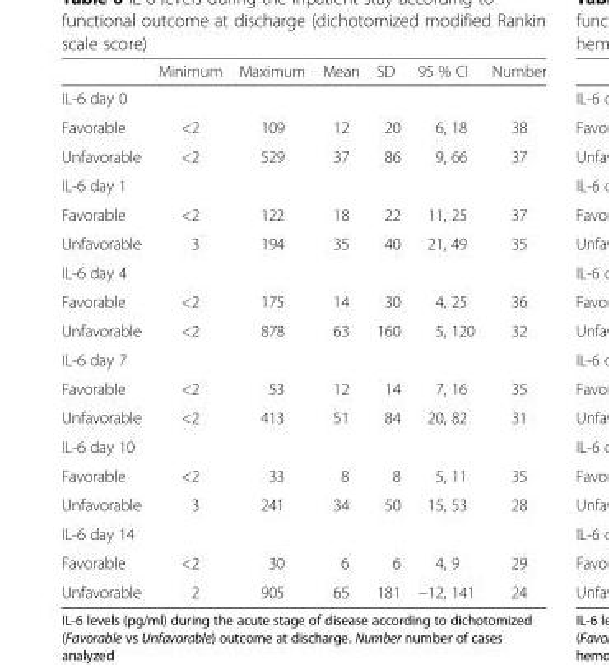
<table><thead><tr><td></td><td>Minimum</td><td>Maximum</td><td>Mean</td><td>SD</td><td>95 % CI</td><td>Number</td></tr></thead><tbody><tr><td colspan="7">IL-6 day 0</td></tr><tr><td>Favorable</td><td>&lt;2</td><td>109</td><td>12</td><td>20</td><td>6, 18</td><td>38</td></tr><tr><td>Unfavorable</td><td>&lt;2</td><td>529</td><td>37</td><td>86</td><td>9, 66</td><td>37</td></tr><tr><td colspan="7">IL-6 day 1</td></tr><tr><td>Favorable</td><td>&lt;2</td><td>122</td><td>18</td><td>22</td><td>11, 25</td><td>37</td></tr><tr><td>Unfavorable</td><td>3</td><td>194</td><td>35</td><td>40</td><td>21, 49</td><td>35</td></tr><tr><td colspan="7">IL-6 day 4</td></tr><tr><td>Favorable</td><td>&lt;2</td><td>175</td><td>14</td><td>30</td><td>4, 25</td><td>36</td></tr><tr><td>Unfavorable</td><td>&lt;2</td><td>878</td><td>63</td><td>160</td><td>5, 120</td><td>32</td></tr><tr><td colspan="7">IL-6 day 7</td></tr><tr><td>Favorable</td><td>&lt;2</td><td>53</td><td>12</td><td>14</td><td>7, 16</td><td>35</td></tr><tr><td>Unfavorable</td><td>&lt;2</td><td>413</td><td>51</td><td>84</td><td>20, 82</td><td>31</td></tr><tr><td colspan="7">IL-6 day 10</td></tr><tr><td>Favorable</td><td>&lt;2</td><td>33</td><td>8</td><td>8</td><td>5, 11</td><td>35</td></tr><tr><td>Unfavorable</td><td>3</td><td>241</td><td>34</td><td>50</td><td>15, 53</td><td>28</td></tr><tr><td colspan="7">IL-6 day 14</td></tr><tr><td>Favorable</td><td>&lt;2</td><td>30</td><td>6</td><td>6</td><td>4, 9</td><td>29</td></tr><tr><td>Unfavorable</td><td>2</td><td>905</td><td>65</td><td>181</td><td>−12, 141</td><td>24</td></tr></tbody></table>